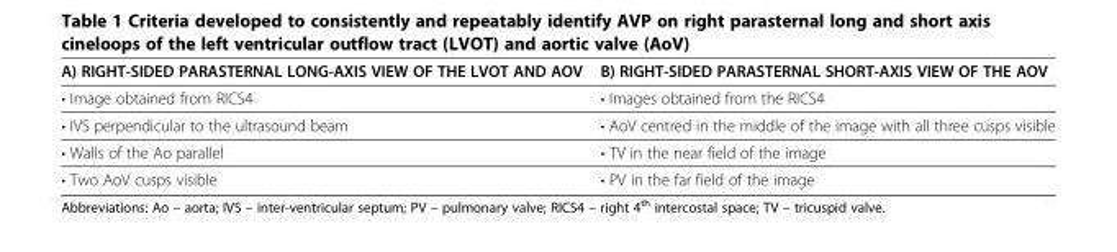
<table><thead><tr><td>A) RIGHT-SIDED PARASTERNAL LONG-AXIS VIEW OF THE LVOT AND AOV</td><td>B) RIGHT-SIDED PARASTERNAL SHORT-AXIS VIEW OF THE AOV</td></tr></thead><tbody><tr><td>• Image obtained from RICS4</td><td>• Images obtained from the RICS4</td></tr><tr><td>• IVS perpendicular to the ultrasound beam</td><td>• AoV centred in the middle of the image with all three cusps visible</td></tr><tr><td>• Walls of the Ao parallel</td><td>• TV in the near field of the image</td></tr><tr><td>• Two AoV cusps visible</td><td>• PV in the far field of the image</td></tr></tbody></table>